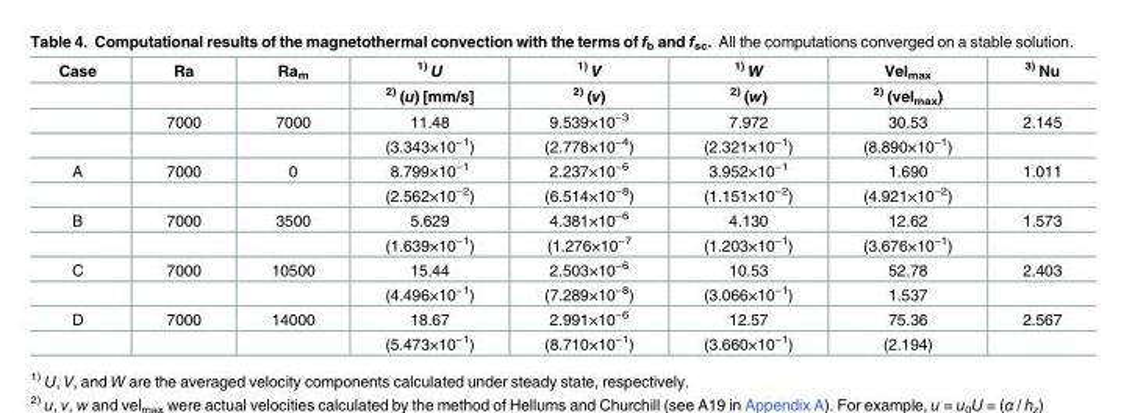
<table><thead><tr><td rowspan="2">Case</td><td rowspan="2">Ra</td><td rowspan="2">Ra<sub>m</sub></td><td rowspan="2"><sup>1)</sup> U <sup>2)</sup> (u) [mm/s]</td><td rowspan="2"><sup>1)</sup> V <sup>2)</sup> (v)</td><td rowspan="2"><sup>1)</sup> W <sup>2)</sup> (w)</td><td rowspan="2">Vel<sub>max</sub> <sup>2)</sup> (vel<sub>max</sub>)</td><td rowspan="2"><sup>3)</sup> Nu</td></tr><tr></tr></thead><tbody><tr><td></td><td>7000</td><td>7000</td><td>11.48</td><td>9.539×10<sup>−3</sup></td><td>7.972</td><td>30.53</td><td>2.145</td></tr><tr><td></td><td></td><td></td><td>(3.343×10<sup>−1</sup>)</td><td>(2.778×10<sup>−4</sup>)</td><td>(2.321×10<sup>−1</sup>)</td><td>(8.890×10<sup>−1</sup>)</td><td></td></tr><tr><td rowspan="2">A</td><td>7000</td><td>0</td><td>8.799×10<sup>−1</sup></td><td>2.237×10<sup>−6</sup></td><td>3.952×10<sup>−1</sup></td><td>1.690</td><td>1.011</td></tr><tr><td></td><td></td><td>(2.562×10<sup>−2</sup>)</td><td>(6.514×10<sup>−8</sup>)</td><td>(1.151×10<sup>−2</sup>)</td><td>(4.921×10<sup>−2</sup>)</td><td></td></tr><tr><td rowspan="2">B</td><td>7000</td><td>3500</td><td>5.629</td><td>4.381×10<sup>−6</sup></td><td>4.130</td><td>12.62</td><td>1.573</td></tr><tr><td></td><td></td><td>(1.639×10<sup>−1</sup>)</td><td>(1.276×10<sup>−7</sup></td><td>(1.203×10<sup>−1</sup>)</td><td>(3.676×10<sup>−1</sup>)</td><td></td></tr><tr><td rowspan="2">C</td><td>7000</td><td>10500</td><td>15.44</td><td>2.503×10<sup>−6</sup></td><td>10.53</td><td>52.78</td><td>2.403</td></tr><tr><td></td><td></td><td>(4.496×10<sup>−1</sup>)</td><td>(7.289×10<sup>−8</sup>)</td><td>(3.066×10<sup>−1</sup>)</td><td>1.537</td><td></td></tr><tr><td rowspan="2">D</td><td>7000</td><td>14000</td><td>18.67</td><td>2.991×10<sup>−6</sup></td><td>12.57</td><td>75.36</td><td>2.567</td></tr><tr><td></td><td></td><td>(5.473×10<sup>−1</sup>)</td><td>(8.710×10<sup>−1</sup>)</td><td>(3.660×10<sup>−1</sup>)</td><td>(2.194)</td><td></td></tr></tbody></table>